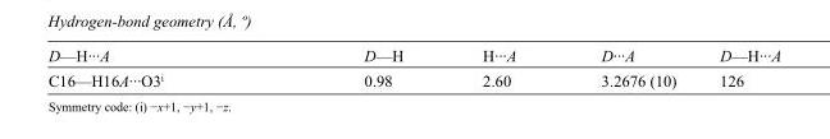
<table><tbody><tr><td>D—H···A</td><td>D—H</td><td>H···A</td><td>D···A</td><td>D—H···A</td></tr><tr><td>C16—H16A···O3<sup>i</sup></td><td>0.98</td><td>2.60</td><td>3.2676 (10)</td><td>126</td></tr></tbody></table>